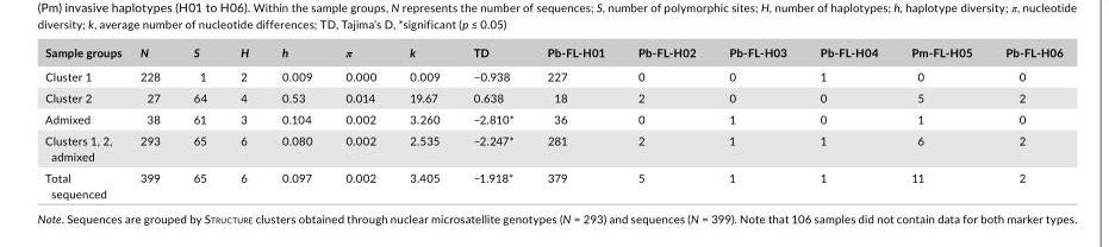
<table><thead><tr><td>Sample groups</td><td>N</td><td>S</td><td>H</td><td>h</td><td>π</td><td>k</td><td>TD</td><td>Pb- FL- H01</td><td>Pb- FL- H02</td><td>Pb- FL- H03</td><td>Pb- FL- H04</td><td>Pm- FL- H05</td><td>Pb- FL- H06</td></tr></thead><tbody><tr><td>Cluster 1</td><td>228</td><td>1</td><td>2</td><td>0.009</td><td>0.000</td><td>0.009</td><td>−0.938</td><td>227</td><td>0</td><td>0</td><td>1</td><td>0</td><td>0</td></tr><tr><td>Cluster 2</td><td>27</td><td>64</td><td>4</td><td>0.53</td><td>0.014</td><td>19.67</td><td>0.638</td><td>18</td><td>2</td><td>0</td><td>0</td><td>5</td><td>2</td></tr><tr><td>Admixed</td><td>38</td><td>61</td><td>3</td><td>0.104</td><td>0.002</td><td>3.260</td><td>−2.810*</td><td>36</td><td>0</td><td>1</td><td>0</td><td>1</td><td>0</td></tr><tr><td>Clusters 1, 2, admixed</td><td>293</td><td>65</td><td>6</td><td>0.080</td><td>0.002</td><td>2.535</td><td>−2.247*</td><td>281</td><td>2</td><td>1</td><td>1</td><td>6</td><td>2</td></tr><tr><td>Total sequenced</td><td>399</td><td>65</td><td>6</td><td>0.097</td><td>0.002</td><td>3.405</td><td>−1.918*</td><td>379</td><td>5</td><td>1</td><td>1</td><td>11</td><td>2</td></tr></tbody></table>